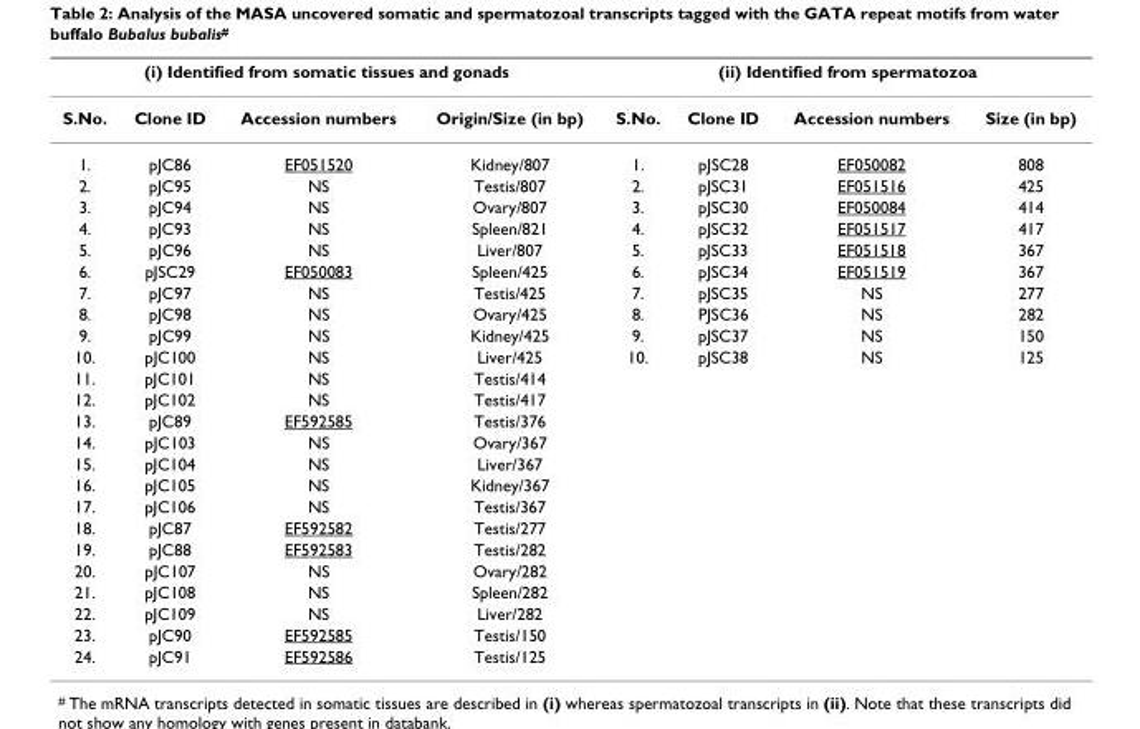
<table><thead><tr><td colspan="4">(i) Identified from somatic tissues and gonads</td><td colspan="4">(ii) Identified from spermatozoa</td></tr><tr><td>S.No.</td><td>Clone ID</td><td>Accession numbers</td><td>Origin/Size (in bp)</td><td>S.No.</td><td>Clone ID</td><td>Accession numbers</td><td>Size (in bp)</td></tr></thead><tbody><tr><td>1.</td><td>pJC86</td><td>EF051520</td><td>Kidney/807</td><td>1.</td><td>pJSC28</td><td>EF050082</td><td>808</td></tr><tr><td>2.</td><td>pJC95</td><td>NS</td><td>Testis/807</td><td>2.</td><td>pJSC31</td><td>EF051516</td><td>425</td></tr><tr><td>3.</td><td>pJC94</td><td>NS</td><td>Ovary/807</td><td>3.</td><td>pJSC30</td><td>EF050084</td><td>414</td></tr><tr><td>4.</td><td>pJC93</td><td>NS</td><td>Spleen/821</td><td>4.</td><td>pJSC32</td><td>EF051517</td><td>417</td></tr><tr><td>5.</td><td>pJC96</td><td>NS</td><td>Liver/807</td><td>5.</td><td>pJSC33</td><td>EF051518</td><td>367</td></tr><tr><td>6.</td><td>pJSC29</td><td>EF050083</td><td>Spleen/425</td><td>6.</td><td>pJSC34</td><td>EF051519</td><td>367</td></tr><tr><td>7.</td><td>pJC97</td><td>NS</td><td>Testis/425</td><td>7.</td><td>pJSC35</td><td>NS</td><td>277</td></tr><tr><td>8.</td><td>pJC98</td><td>NS</td><td>Ovary/425</td><td>8.</td><td>PJSC36</td><td>NS</td><td>282</td></tr><tr><td>9.</td><td>pJC99</td><td>NS</td><td>Kidney/425</td><td>9.</td><td>pJSC37</td><td>NS</td><td>150</td></tr><tr><td>10.</td><td>pJC100</td><td>NS</td><td>Liver/425</td><td>10.</td><td>pJSC38</td><td>NS</td><td>125</td></tr><tr><td>11.</td><td>pJC101</td><td>NS</td><td>Testis/414</td><td></td><td></td><td></td><td></td></tr><tr><td>12.</td><td>pJC102</td><td>NS</td><td>Testis/417</td><td></td><td></td><td></td><td></td></tr><tr><td>13.</td><td>pJC89</td><td>EF592585</td><td>Testis/376</td><td></td><td></td><td></td><td></td></tr><tr><td>14.</td><td>pJC103</td><td>NS</td><td>Ovary/367</td><td></td><td></td><td></td><td></td></tr><tr><td>15.</td><td>pJC104</td><td>NS</td><td>Liver/367</td><td></td><td></td><td></td><td></td></tr><tr><td>16.</td><td>pJC105</td><td>NS</td><td>Kidney/367</td><td></td><td></td><td></td><td></td></tr><tr><td>17.</td><td>pJC106</td><td>NS</td><td>Testis/367</td><td></td><td></td><td></td><td></td></tr><tr><td>18.</td><td>pJC87</td><td>EF592582</td><td>Testis/277</td><td></td><td></td><td></td><td></td></tr><tr><td>19.</td><td>pJC88</td><td>EF592583</td><td>Testis/282</td><td></td><td></td><td></td><td></td></tr><tr><td>20.</td><td>pJC107</td><td>NS</td><td>Ovary/282</td><td></td><td></td><td></td><td></td></tr><tr><td>21.</td><td>pJC108</td><td>NS</td><td>Spleen/282</td><td></td><td></td><td></td><td></td></tr><tr><td>22.</td><td>pJC109</td><td>NS</td><td>Liver/282</td><td></td><td></td><td></td><td></td></tr><tr><td>23.</td><td>pJC90</td><td>EF592585</td><td>Testis/150</td><td></td><td></td><td></td><td></td></tr><tr><td>24.</td><td>pJC91</td><td>EF592586</td><td>Testis/125</td><td></td><td></td><td></td><td></td></tr></tbody></table>